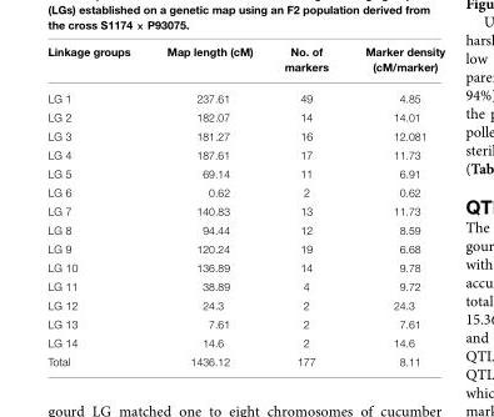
<table><thead><tr><td>Linkage groups</td><td>Map length (cM)</td><td>No. of markers</td><td>Marker density (cM/marker)</td></tr></thead><tbody><tr><td>LG 1</td><td>237.61</td><td>49</td><td>4.85</td></tr><tr><td>LG 2</td><td>182.07</td><td>14</td><td>14.01</td></tr><tr><td>LG 3</td><td>181.27</td><td>16</td><td>12.081</td></tr><tr><td>LG 4</td><td>187.61</td><td>17</td><td>11.73</td></tr><tr><td>LG 5</td><td>69.14</td><td>11</td><td>6.91</td></tr><tr><td>LG 6</td><td>0.62</td><td>2</td><td>0.62</td></tr><tr><td>LG 7</td><td>140.83</td><td>13</td><td>11.73</td></tr><tr><td>LG 8</td><td>94.44</td><td>12</td><td>8.59</td></tr><tr><td>LG 9</td><td>120.24</td><td>19</td><td>6.68</td></tr><tr><td>LG 10</td><td>136.89</td><td>14</td><td>9.78</td></tr><tr><td>LG 11</td><td>38.89</td><td>4</td><td>9.72</td></tr><tr><td>LG 12</td><td>24.3</td><td>2</td><td>24.3</td></tr><tr><td>LG 13</td><td>7.61</td><td>2</td><td>7.61</td></tr><tr><td>LG 14</td><td>14.6</td><td>2</td><td>14.6</td></tr><tr><td>Total</td><td>1436.12</td><td>177</td><td>8.11</td></tr></tbody></table>